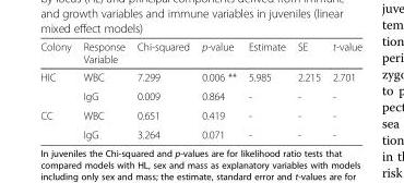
<table><thead><tr><td>Colony</td><td>Response Variable</td><td>Chi-squared</td><td>p-value</td><td>Estimate</td><td>SE</td><td>t-value</td></tr></thead><tbody><tr><td rowspan="2">HIC</td><td>WBC</td><td>7.299</td><td>0.006 **</td><td>5.985</td><td>2.215</td><td>2.701</td></tr><tr><td>IgG</td><td>0.009</td><td>0.864</td><td>-</td><td>-</td><td>-</td></tr><tr><td rowspan="2">CC</td><td>WBC</td><td>0.651</td><td>0.419</td><td>-</td><td>-</td><td>-</td></tr><tr><td>IgG</td><td>3.264</td><td>0.071</td><td>-</td><td>-</td><td>-</td></tr></tbody></table>